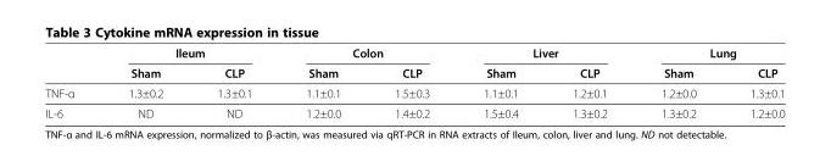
<table><thead><tr><td rowspan="2"></td><td colspan="2">Ileum</td><td colspan="2">Colon</td><td colspan="2">Liver</td><td colspan="2">Lung</td></tr><tr><td>Sham</td><td>CLP</td><td>Sham</td><td>CLP</td><td>Sham</td><td>CLP</td><td>Sham</td><td>CLP</td></tr></thead><tbody><tr><td>TNF-α</td><td>1.3±0.2</td><td>1.3±0.1</td><td>1.1±0.1</td><td>1.5±0.3</td><td>1.1±0.1</td><td>1.2±0.1</td><td>1.2±0.0</td><td>1.3±0.1</td></tr><tr><td>IL-6</td><td>ND</td><td>ND</td><td>1.2±0.0</td><td>1.4±0.2</td><td>1.5±0.4</td><td>1.3±0.2</td><td>1.3±0.2</td><td>1.2±0.0</td></tr></tbody></table>